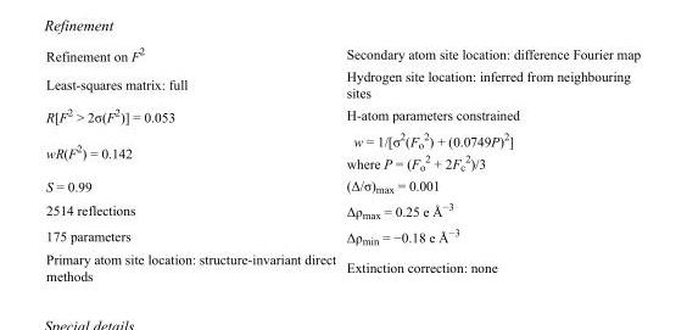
<table><tbody><tr><td>Refinement on F<sup>2</sup></td><td>Secondary atom site location: difference Fourier map</td></tr><tr><td>Least-squares matrix: full</td><td>Hydrogen site location: inferred from neighbouring sites</td></tr><tr><td>R[F<sup>2</sup> &gt; 2σ(F<sup>2</sup>)] = 0.053</td><td>H-atom parameters constrained</td></tr><tr><td>wR(F<sup>2</sup>) = 0.142</td><td>w = 1/[σ<sup>2</sup>(F<sub>o</sub> <sup>2</sup>) + (0.0749P)<sup>2</sup>] where P = (F<sub>o</sub> <sup>2</sup> + 2F<sub>c</sub> <sup>2</sup>)/3</td></tr><tr><td>S = 0.99</td><td>(Δ/σ)<sub>max</sub> = 0.001</td></tr><tr><td>2514 reflections</td><td>Δρ<sub>max</sub> = 0.25 e Å<sup>−3</sup></td></tr><tr><td>175 parameters</td><td>Δρ<sub>min</sub> = −0.18 e Å<sup>−3</sup></td></tr><tr><td>Primary atom site location: structure-invariant direct methods</td><td>Extinction correction: none</td></tr></tbody></table>